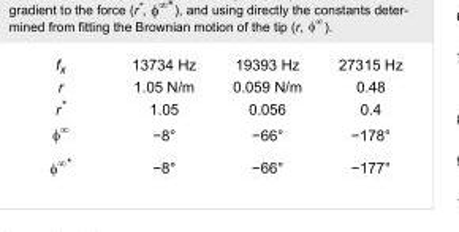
<table><tbody><tr><td>f<sub>x</sub></td><td>13734 Hz</td><td>19393 Hz</td><td>27315 Hz</td></tr><tr><td>r</td><td>1.05 N/m</td><td>0.059 N/m</td><td>0.48</td></tr><tr><td rowspan="3">r*</td><td>1.05</td><td>0.056</td><td>0.4</td></tr><tr><td>−8°</td><td>−66°</td><td>−178°</td></tr><tr><td>−8°</td><td>−66°</td><td>−177°</td></tr></tbody></table>